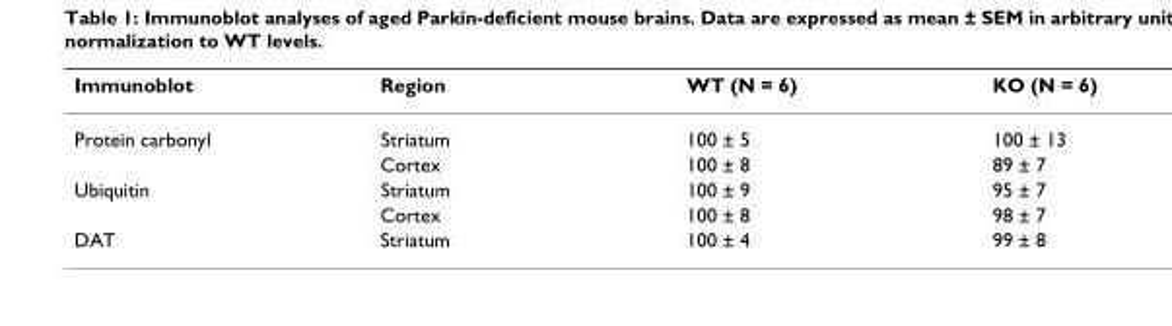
<table><thead><tr><td>Immunoblot</td><td>Region</td><td>WT (N = 6)</td><td>KO (N = 6)</td></tr></thead><tbody><tr><td rowspan="2">Protein carbonyl</td><td>Striatum</td><td>100 ± 5</td><td>100 ± 13</td></tr><tr><td>Cortex</td><td>100 ± 8</td><td>89 ± 7</td></tr><tr><td rowspan="2">Ubiquitin</td><td>Striatum</td><td>100 ± 9</td><td>95 ± 7</td></tr><tr><td>Cortex</td><td>100 ± 8</td><td>98 ± 7</td></tr><tr><td>DAT</td><td>Striatum</td><td>100 ± 4</td><td>99 ± 8</td></tr></tbody></table>